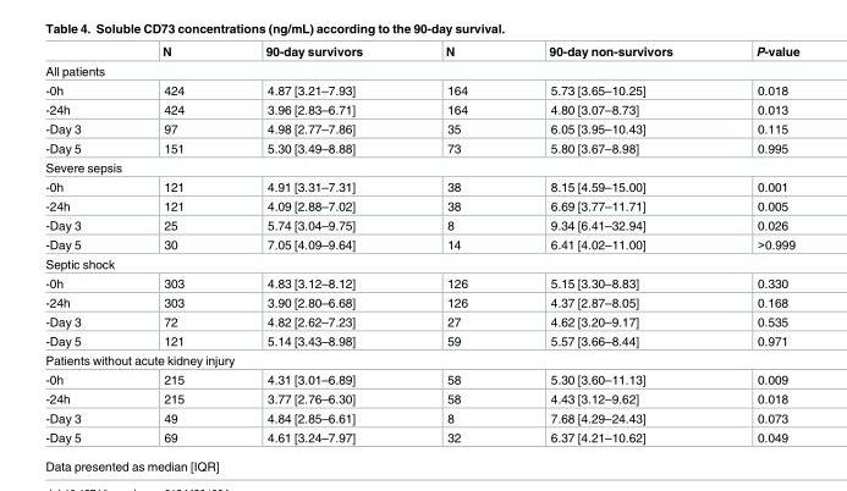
<table><thead><tr><td></td><td>N</td><td>90-day survivors</td><td>N</td><td>90-day non-survivors</td><td>P-value</td></tr></thead><tbody><tr><td colspan="6">All patients</td></tr><tr><td>-0h</td><td>424</td><td>4.87 [3.21–7.93]</td><td>164</td><td>5.73 [3.65–10.25]</td><td>0.018</td></tr><tr><td>-24h</td><td>424</td><td>3.96 [2.83–6.71]</td><td>164</td><td>4.80 [3.07–8.73]</td><td>0.013</td></tr><tr><td>-Day 3</td><td>97</td><td>4.98 [2.77–7.86]</td><td>35</td><td>6.05 [3.95–10.43]</td><td>0.115</td></tr><tr><td>-Day 5</td><td>151</td><td>5.30 [3.49–8.88]</td><td>73</td><td>5.80 [3.67–8.98]</td><td>0.995</td></tr><tr><td colspan="6">Severe sepsis</td></tr><tr><td>-0h</td><td>121</td><td>4.91 [3.31–7.31]</td><td>38</td><td>8.15 [4.59–15.00]</td><td>0.001</td></tr><tr><td>-24h</td><td>121</td><td>4.09 [2.88–7.02]</td><td>38</td><td>6.69 [3.77–11.71]</td><td>0.005</td></tr><tr><td>-Day 3</td><td>25</td><td>5.74 [3.04–9.75]</td><td>8</td><td>9.34 [6.41–32.94]</td><td>0.026</td></tr><tr><td>-Day 5</td><td>30</td><td>7.05 [4.09–9.64]</td><td>14</td><td>6.41 [4.02–11.00]</td><td>&gt;0.999</td></tr><tr><td colspan="6">Septic shock</td></tr><tr><td>-0h</td><td>303</td><td>4.83 [3.12–8.12]</td><td>126</td><td>5.15 [3.30–8.83]</td><td>0.330</td></tr><tr><td>-24h</td><td>303</td><td>3.90 [2.80–6.68]</td><td>126</td><td>4.37 [2.87–8.05]</td><td>0.168</td></tr><tr><td>-Day 3</td><td>72</td><td>4.82 [2.62–7.23]</td><td>27</td><td>4.62 [3.20–9.17]</td><td>0.535</td></tr><tr><td>-Day 5</td><td>121</td><td>5.14 [3.43–8.98]</td><td>59</td><td>5.57 [3.66–8.44]</td><td>0.971</td></tr><tr><td colspan="6">Patients without acute kidney injury</td></tr><tr><td>-0h</td><td>215</td><td>4.31 [3.01–6.89]</td><td>58</td><td>5.30 [3.60–11.13]</td><td>0.009</td></tr><tr><td>-24h</td><td>215</td><td>3.77 [2.76–6.30]</td><td>58</td><td>4.43 [3.12–9.62]</td><td>0.018</td></tr><tr><td>-Day 3</td><td>49</td><td>4.84 [2.85–6.61]</td><td>8</td><td>7.68 [4.29–24.43]</td><td>0.073</td></tr><tr><td>-Day 5</td><td>69</td><td>4.61 [3.24–7.97]</td><td>32</td><td>6.37 [4.21–10.62]</td><td>0.049</td></tr></tbody></table>